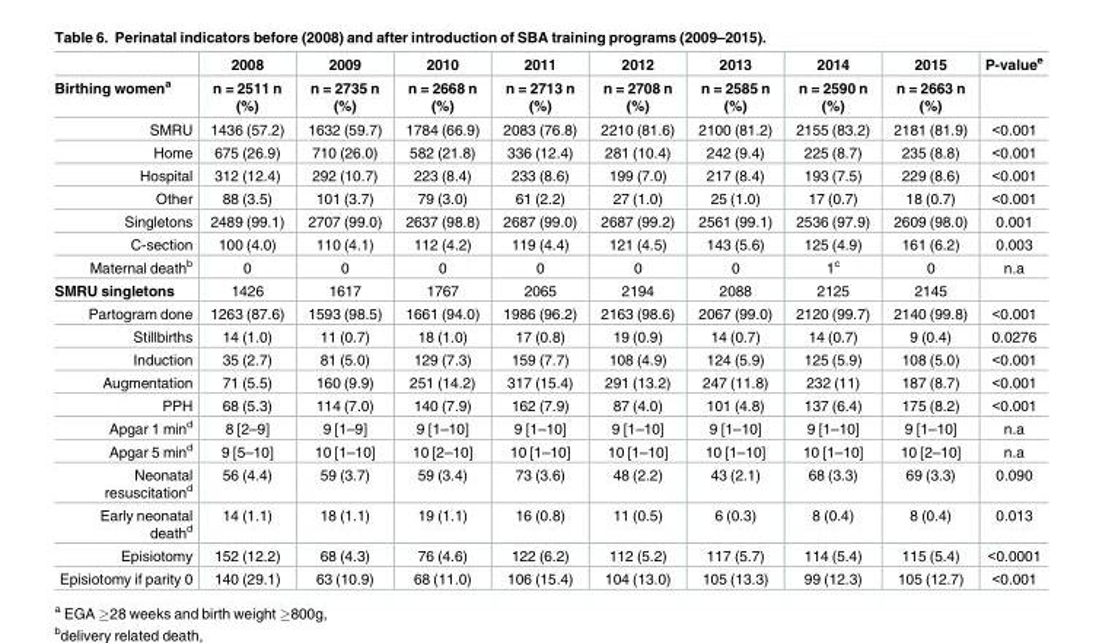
<table><thead><tr><td rowspan="2">Birthing women<sup>a</sup></td><td rowspan="2">2008 n = 2511 n (%)</td><td rowspan="2">2009 n = 2735 n (%)</td><td rowspan="2">2010 n = 2668 n (%)</td><td rowspan="2">2011 n = 2713 n (%)</td><td rowspan="2">2012 n = 2708 n (%)</td><td rowspan="2">2013 n = 2585 n (%)</td><td rowspan="2">2014 n = 2590 n (%)</td><td rowspan="2">2015 n = 2663 n (%)</td><td rowspan="2">P-value<sup>e</sup></td></tr><tr></tr></thead><tbody><tr><td>SMRU</td><td>1436 (57.2)</td><td>1632 (59.7)</td><td>1784 (66.9)</td><td>2083 (76.8)</td><td>2210 (81.6)</td><td>2100 (81.2)</td><td>2155 (83.2)</td><td>2181 (81.9)</td><td>&lt;0.001</td></tr><tr><td>Home</td><td>675 (26.9)</td><td>710 (26.0)</td><td>582 (21.8)</td><td>336 (12.4)</td><td>281 (10.4)</td><td>242 (9.4)</td><td>225 (8.7)</td><td>235 (8.8)</td><td>&lt;0.001</td></tr><tr><td>Hospital</td><td>312 (12.4)</td><td>292 (10.7)</td><td>223 (8.4)</td><td>233 (8.6)</td><td>199 (7.0)</td><td>217 (8.4)</td><td>193 (7.5)</td><td>229 (8.6)</td><td>&lt;0.001</td></tr><tr><td>Other</td><td>88 (3.5)</td><td>101 (3.7)</td><td>79 (3.0)</td><td>61 (2.2)</td><td>27 (1.0)</td><td>25 (1.0)</td><td>17 (0.7)</td><td>18 (0.7)</td><td>&lt;0.001</td></tr><tr><td>Singletons</td><td>2489 (99.1)</td><td>2707 (99.0)</td><td>2637 (98.8)</td><td>2687 (99.0)</td><td>2687 (99.2)</td><td>2561 (99.1)</td><td>2536 (97.9)</td><td>2609 (98.0)</td><td>0.001</td></tr><tr><td>C-section</td><td>100 (4.0)</td><td>110 (4.1)</td><td>112 (4.2)</td><td>119 (4.4)</td><td>121 (4.5)</td><td>143 (5.6)</td><td>125 (4.9)</td><td>161 (6.2)</td><td>0.003</td></tr><tr><td>Maternal death<sup>b</sup></td><td>0</td><td>0</td><td>0</td><td>0</td><td>0</td><td>0</td><td>1<sup>c</sup></td><td>0</td><td>n.a</td></tr><tr><td>SMRU singletons</td><td>1426</td><td>1617</td><td>1767</td><td>2065</td><td>2194</td><td>2088</td><td>2125</td><td>2145</td><td></td></tr><tr><td>Partogram done</td><td>1263 (87.6)</td><td>1593 (98.5)</td><td>1661 (94.0)</td><td>1986 (96.2)</td><td>2163 (98.6)</td><td>2067 (99.0)</td><td>2120 (99.7)</td><td>2140 (99.8)</td><td>&lt;0.001</td></tr><tr><td>Stillbirths</td><td>14 (1.0)</td><td>11 (0.7)</td><td>18 (1.0)</td><td>17 (0.8)</td><td>19 (0.9)</td><td>14 (0.7)</td><td>14 (0.7)</td><td>9 (0.4)</td><td>0.0276</td></tr><tr><td>Induction</td><td>35 (2.7)</td><td>81 (5.0)</td><td>129 (7.3)</td><td>159 (7.7)</td><td>108 (4.9)</td><td>124 (5.9)</td><td>125 (5.9)</td><td>108 (5.0)</td><td>&lt;0.001</td></tr><tr><td>Augmentation</td><td>71 (5.5)</td><td>160 (9.9)</td><td>251 (14.2)</td><td>317 (15.4)</td><td>291 (13.2)</td><td>247 (11.8)</td><td>232 (11)</td><td>187 (8.7)</td><td>&lt;0.001</td></tr><tr><td>PPH</td><td>68 (5.3)</td><td>114 (7.0)</td><td>140 (7.9)</td><td>162 (7.9)</td><td>87 (4.0)</td><td>101 (4.8)</td><td>137 (6.4)</td><td>175 (8.2)</td><td>&lt;0.001</td></tr><tr><td>Apgar 1 min<sup>d</sup></td><td>8 [2–9]</td><td>9 [1–9]</td><td>9 [1–10]</td><td>9 [1–10]</td><td>9 [1–10]</td><td>9 [1–10]</td><td>9 [1–10]</td><td>9 [1–10]</td><td>n.a</td></tr><tr><td>Apgar 5 min<sup>d</sup></td><td>9 [5–10]</td><td>10 [1–10]</td><td>10 [2–10]</td><td>10 [1–10]</td><td>10 [1–10]</td><td>10 [1–10]</td><td>10 [1–10]</td><td>10 [2–10]</td><td>n.a</td></tr><tr><td>Neonatal resuscitation<sup>d</sup></td><td>56 (4.4)</td><td>59 (3.7)</td><td>59 (3.4)</td><td>73 (3.6)</td><td>48 (2.2)</td><td>43 (2.1)</td><td>68 (3.3)</td><td>69 (3.3)</td><td>0.090</td></tr><tr><td>Early neonatal death<sup>d</sup></td><td>14 (1.1)</td><td>18 (1.1)</td><td>19 (1.1)</td><td>16 (0.8)</td><td>11 (0.5)</td><td>6 (0.3)</td><td>8 (0.4)</td><td>8 (0.4)</td><td>0.013</td></tr><tr><td>Episiotomy</td><td>152 (12.2)</td><td>68 (4.3)</td><td>76 (4.6)</td><td>122 (6.2)</td><td>112 (5.2)</td><td>117 (5.7)</td><td>114 (5.4)</td><td>115 (5.4)</td><td>&lt;0.0001</td></tr><tr><td>Episiotomy if parity 0</td><td>140 (29.1)</td><td>63 (10.9)</td><td>68 (11.0)</td><td>106 (15.4)</td><td>104 (13.0)</td><td>105 (13.3)</td><td>99 (12.3)</td><td>105 (12.7)</td><td>&lt;0.001</td></tr></tbody></table>